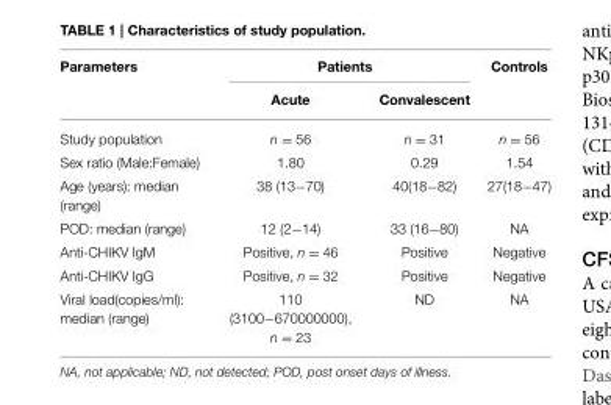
<table><thead><tr><td rowspan="2">Parameters</td><td colspan="2">Patients</td><td rowspan="2">Controls</td></tr><tr><td>Acute</td><td>Convalescent</td></tr></thead><tbody><tr><td>Study population</td><td>n = 56</td><td>n = 31</td><td>n = 56</td></tr><tr><td>Sex ratio (Male:Female)</td><td>1.80</td><td>0.29</td><td>1.54</td></tr><tr><td>Age (years): median (range)</td><td>38 (13−70)</td><td>40(18−82)</td><td>27(18−47)</td></tr><tr><td>POD: median (range)</td><td>12 (2−14)</td><td>33 (16−80)</td><td>NA</td></tr><tr><td>Anti-CHIKV IgM</td><td>Positive, n = 46</td><td>Positive</td><td>Negative</td></tr><tr><td>Anti-CHIKV IgG</td><td>Positive, n = 32</td><td>Positive</td><td>Negative</td></tr><tr><td>Viral load(copies/ml): median (range)</td><td>110 (3100−670000000), n = 23</td><td>ND</td><td>NA</td></tr></tbody></table>